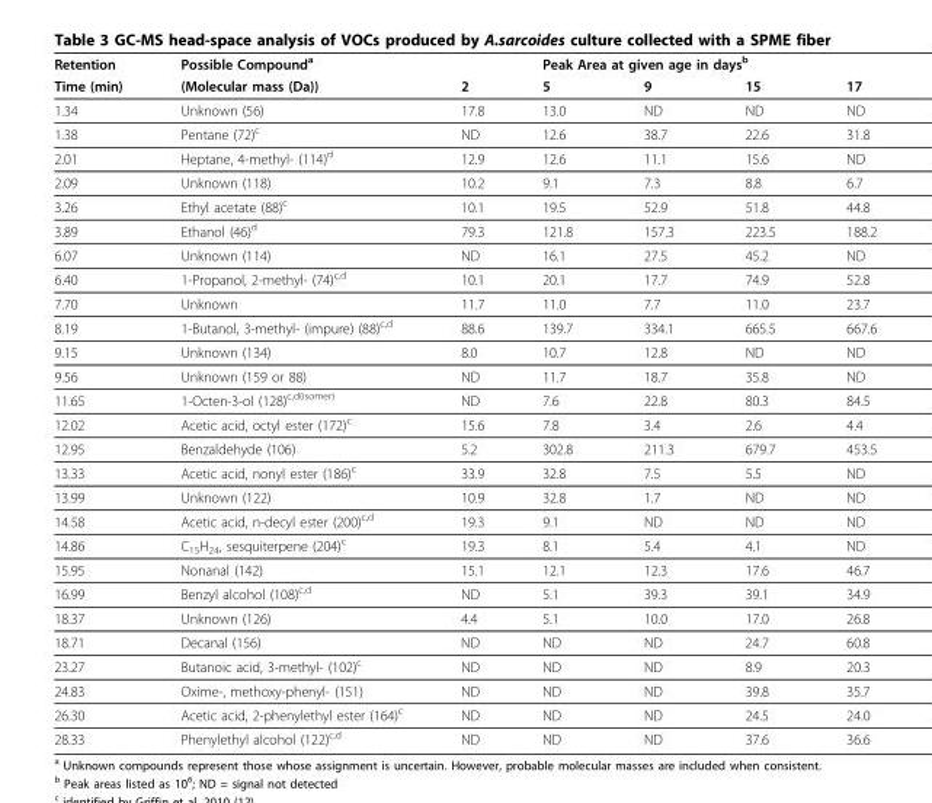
<table><thead><tr><td rowspan="2">Retention Time (min)</td><td rowspan="2">Possible Compound<sup>a</sup> (Molecular mass (Da))</td><td rowspan="2">2</td><td colspan="4">Peak Area at given age in days<sup>b</sup></td></tr><tr><td>5</td><td>9</td><td>15</td><td>17</td></tr></thead><tbody><tr><td>1.34</td><td>Unknown (56)</td><td>17.8</td><td>13.0</td><td>ND</td><td>ND</td><td>ND</td></tr><tr><td>1.38</td><td>Pentane (72)<sup>c</sup></td><td>ND</td><td>12.6</td><td>38.7</td><td>22.6</td><td>31.8</td></tr><tr><td>2.01</td><td>Heptane, 4-methyl- (114)<sup>d</sup></td><td>12.9</td><td>12.6</td><td>11.1</td><td>15.6</td><td>ND</td></tr><tr><td>2.09</td><td>Unknown (118)</td><td>10.2</td><td>9.1</td><td>7.3</td><td>8.8</td><td>6.7</td></tr><tr><td>3.26</td><td>Ethyl acetate (88)<sup>c</sup></td><td>10.1</td><td>19.5</td><td>52.9</td><td>51.8</td><td>44.8</td></tr><tr><td>3.89</td><td>Ethanol (46)<sup>d</sup></td><td>79.3</td><td>121.8</td><td>157.3</td><td>223.5</td><td>188.2</td></tr><tr><td>6.07</td><td>Unknown (114)</td><td>ND</td><td>16.1</td><td>27.5</td><td>45.2</td><td>ND</td></tr><tr><td>6.40</td><td>1-Propanol, 2-methyl- (74)<sup>c,d</sup></td><td>10.1</td><td>20.1</td><td>17.7</td><td>74.9</td><td>52.8</td></tr><tr><td>7.70</td><td>Unknown</td><td>11.7</td><td>11.0</td><td>7.7</td><td>11.0</td><td>23.7</td></tr><tr><td>8.19</td><td>1-Butanol, 3-methyl- (impure) (88)<sup>c,d</sup></td><td>88.6</td><td>139.7</td><td>334.1</td><td>665.5</td><td>667.6</td></tr><tr><td>9.15</td><td>Unknown (134)</td><td>8.0</td><td>10.7</td><td>12.8</td><td>ND</td><td>ND</td></tr><tr><td>9.56</td><td>Unknown (159 or 88)</td><td>ND</td><td>11.7</td><td>18.7</td><td>35.8</td><td>ND</td></tr><tr><td>11.65</td><td>1-Octen-3-ol (128)<sup>c,d(isomer)</sup></td><td>ND</td><td>7.6</td><td>22.8</td><td>80.3</td><td>84.5</td></tr><tr><td>12.02</td><td>Acetic acid, octyl ester (172)<sup>c</sup></td><td>15.6</td><td>7.8</td><td>3.4</td><td>2.6</td><td>4.4</td></tr><tr><td>12.95</td><td>Benzaldehyde (106)</td><td>5.2</td><td>302.8</td><td>211.3</td><td>679.7</td><td>453.5</td></tr><tr><td>13.33</td><td>Acetic acid, nonyl ester (186)<sup>c</sup></td><td>33.9</td><td>32.8</td><td>7.5</td><td>5.5</td><td>ND</td></tr><tr><td>13.99</td><td>Unknown (122)</td><td>10.9</td><td>32.8</td><td>1.7</td><td>ND</td><td>ND</td></tr><tr><td>14.58</td><td>Acetic acid, n-decyl ester (200)<sup>c,d</sup></td><td>19.3</td><td>9.1</td><td>ND</td><td>ND</td><td>ND</td></tr><tr><td>14.86</td><td>C<sub>15</sub>H<sub>24</sub>, sesquiterpene (204)<sup>c</sup></td><td>19.3</td><td>8.1</td><td>5.4</td><td>4.1</td><td>ND</td></tr><tr><td>15.95</td><td>Nonanal (142)</td><td>15.1</td><td>12.1</td><td>12.3</td><td>17.6</td><td>46.7</td></tr><tr><td>16.99</td><td>Benzyl alcohol (108)<sup>c,d</sup></td><td>ND</td><td>5.1</td><td>39.3</td><td>39.1</td><td>34.9</td></tr><tr><td>18.37</td><td>Unknown (126)</td><td>4.4</td><td>5.1</td><td>10.0</td><td>17.0</td><td>26.8</td></tr><tr><td>18.71</td><td>Decanal (156)</td><td>ND</td><td>ND</td><td>ND</td><td>24.7</td><td>60.8</td></tr><tr><td>23.27</td><td>Butanoic acid, 3-methyl- (102)<sup>c</sup></td><td>ND</td><td>ND</td><td>ND</td><td>8.9</td><td>20.3</td></tr><tr><td>24.83</td><td>Oxime-, methoxy-phenyl- (151)</td><td>ND</td><td>ND</td><td>ND</td><td>39.8</td><td>35.7</td></tr><tr><td>26.30</td><td>Acetic acid, 2-phenylethyl ester (164)<sup>c</sup></td><td>ND</td><td>ND</td><td>ND</td><td>24.5</td><td>24.0</td></tr><tr><td>28.33</td><td>Phenylethyl alcohol (122)<sup>c,d</sup></td><td>ND</td><td>ND</td><td>ND</td><td>37.6</td><td>36.6</td></tr></tbody></table>